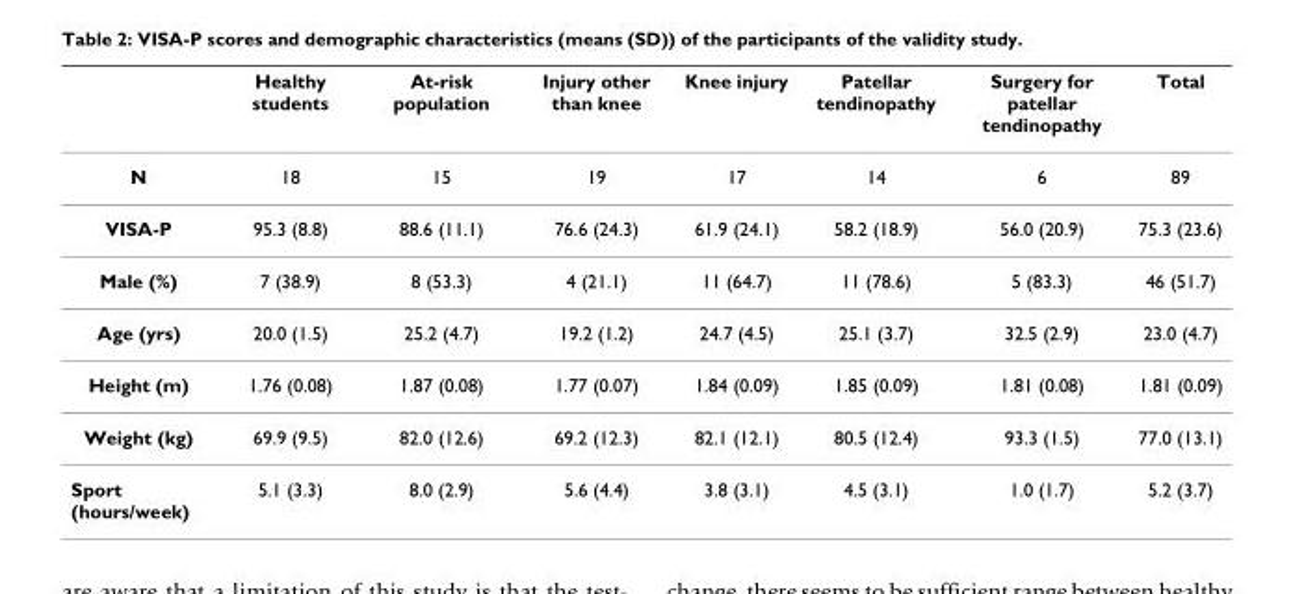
<table><thead><tr><td></td><td>Healthy students</td><td>At-risk population</td><td>Injury other than knee</td><td>Knee injury</td><td>Patellar tendinopathy</td><td>Surgery for patellar tendinopathy</td><td>Total</td></tr></thead><tbody><tr><td>N</td><td>18</td><td>15</td><td>19</td><td>17</td><td>14</td><td>6</td><td>89</td></tr><tr><td>VISA-P</td><td>95.3 (8.8)</td><td>88.6 (11.1)</td><td>76.6 (24.3)</td><td>61.9 (24.1)</td><td>58.2 (18.9)</td><td>56.0 (20.9)</td><td>75.3 (23.6)</td></tr><tr><td>Male (%)</td><td>7 (38.9)</td><td>8 (53.3)</td><td>4 (21.1)</td><td>11 (64.7)</td><td>11 (78.6)</td><td>5 (83.3)</td><td>46 (51.7)</td></tr><tr><td>Age (yrs)</td><td>20.0 (1.5)</td><td>25.2 (4.7)</td><td>19.2 (1.2)</td><td>24.7 (4.5)</td><td>25.1 (3.7)</td><td>32.5 (2.9)</td><td>23.0 (4.7)</td></tr><tr><td>Height (m)</td><td>1.76 (0.08)</td><td>1.87 (0.08)</td><td>1.77 (0.07)</td><td>1.84 (0.09)</td><td>1.85 (0.09)</td><td>1.81 (0.08)</td><td>1.81 (0.09)</td></tr><tr><td>Weight (kg)</td><td>69.9 (9.5)</td><td>82.0 (12.6)</td><td>69.2 (12.3)</td><td>82.1 (12.1)</td><td>80.5 (12.4)</td><td>93.3 (1.5)</td><td>77.0 (13.1)</td></tr><tr><td>Sport (hours/week)</td><td>5.1 (3.3)</td><td>8.0 (2.9)</td><td>5.6 (4.4)</td><td>3.8 (3.1)</td><td>4.5 (3.1)</td><td>1.0 (1.7)</td><td>5.2 (3.7)</td></tr></tbody></table>